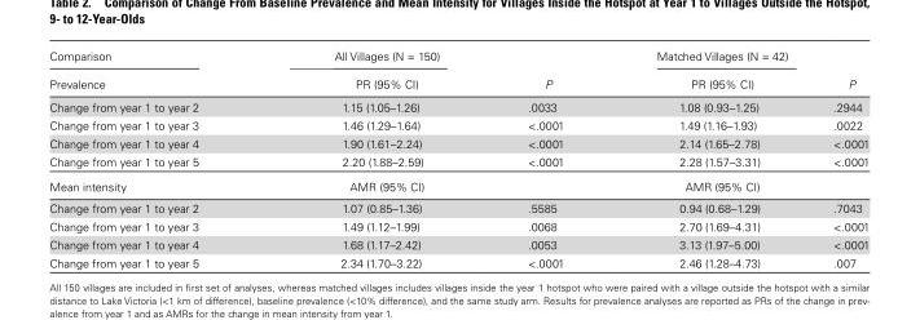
<table><thead><tr><td rowspan="2">Comparison Prevalence</td><td rowspan="2">All Villages (N = 150) PR (95% CI)</td><td rowspan="2">P</td><td rowspan="2">Matched Villages (N = 42) PR (95% CI)</td><td rowspan="2">P</td></tr><tr></tr></thead><tbody><tr><td>Change from year 1 to year 2</td><td>1.15 (1.05–1.26)</td><td>.0033</td><td>1.08 (0.93–1.25)</td><td>.2944</td></tr><tr><td>Change from year 1 to year 3</td><td>1.46 (1.29–1.64)</td><td>&lt;.0001</td><td>1.49 (1.16–1.93)</td><td>.0022</td></tr><tr><td>Change from year 1 to year 4</td><td>1.90 (1.61–2.24)</td><td>&lt;.0001</td><td>2.14 (1.65–2.78)</td><td>&lt;.0001</td></tr><tr><td>Change from year 1 to year 5</td><td>2.20 (1.88–2.59)</td><td>&lt;.0001</td><td>2.28 (1.57–3.31)</td><td>&lt;.0001</td></tr><tr><td>Mean intensity</td><td>AMR (95% CI)</td><td></td><td>AMR (95% CI)</td><td></td></tr><tr><td>Change from year 1 to year 2</td><td>1.07 (0.85–1.36)</td><td>.5585</td><td>0.94 (0.68–1.29)</td><td>.7043</td></tr><tr><td>Change from year 1 to year 3</td><td>1.49 (1.12–1.99)</td><td>.0068</td><td>2.70 (1.69–4.31)</td><td>&lt;.0001</td></tr><tr><td>Change from year 1 to year 4</td><td>1.68 (1.17–2.42)</td><td>.0053</td><td>3.13 (1.97–5.00)</td><td>&lt;.0001</td></tr><tr><td>Change from year 1 to year 5</td><td>2.34 (1.70–3.22)</td><td>&lt;.0001</td><td>2.46 (1.28–4.73)</td><td>.007</td></tr></tbody></table>